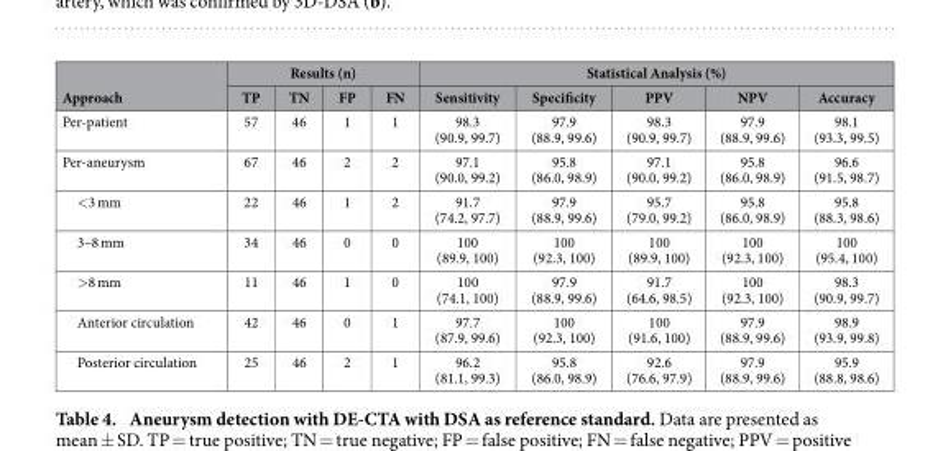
<table><thead><tr><td rowspan="2">Approach</td><td colspan="4">Results (n)</td><td colspan="5">Statistical Analysis (%)</td></tr><tr><td>TP</td><td>TN</td><td>FP</td><td>FN</td><td>Sensitivity</td><td>Specificity</td><td>PPV</td><td>NPV</td><td>Accuracy</td></tr></thead><tbody><tr><td>Per-patient</td><td>57</td><td>46</td><td>1</td><td>1</td><td>98.3 (90.9, 99.7)</td><td>97.9 (88.9, 99.6)</td><td>98.3 (90.9, 99.7)</td><td>97.9 (88.9, 99.6)</td><td>98.1 (93.3, 99.5)</td></tr><tr><td>Per-aneurysm</td><td>67</td><td>46</td><td>2</td><td>2</td><td>97.1 (90.0, 99.2)</td><td>95.8 (86.0, 98.9)</td><td>97.1 (90.0, 99.2)</td><td>95.8 (86.0, 98.9)</td><td>96.6 (91.5, 98.7)</td></tr><tr><td>&lt; 3 mm</td><td>22</td><td>46</td><td>1</td><td>2</td><td>91.7 (74.2, 97.7)</td><td>97.9 (88.9, 99.6)</td><td>95.7 (79.0, 99.2)</td><td>95.8 (86.0, 98.9)</td><td>95.8 (88.3, 98.6)</td></tr><tr><td>3–8 mm</td><td>34</td><td>46</td><td>0</td><td>0</td><td>100 (89.9, 100)</td><td>100 (92.3, 100)</td><td>100 (89.9, 100)</td><td>100 (92.3, 100)</td><td>100 (95.4, 100)</td></tr><tr><td>&gt; 8 mm</td><td>11</td><td>46</td><td>1</td><td>0</td><td>100 (74.1, 100)</td><td>97.9 (88.9, 99.6)</td><td>91.7 (64.6, 98.5)</td><td>100 (92.3, 100)</td><td>98.3 (90.9, 99.7)</td></tr><tr><td>Anterior circulation</td><td>42</td><td>46</td><td>0</td><td>1</td><td>97.7 (87.9, 99.6)</td><td>100 (92.3, 100)</td><td>100 (91.6, 100)</td><td>97.9 (88.9, 99.6)</td><td>98.9 (93.9, 99.8)</td></tr><tr><td>Posterior circulation</td><td>25</td><td>46</td><td>2</td><td>1</td><td>96.2 (81.1, 99.3)</td><td>95.8 (86.0, 98.9)</td><td>92.6 (76.6, 97.9)</td><td>97.9 (88.9, 99.6)</td><td>95.9 (88.8, 98.6)</td></tr></tbody></table>